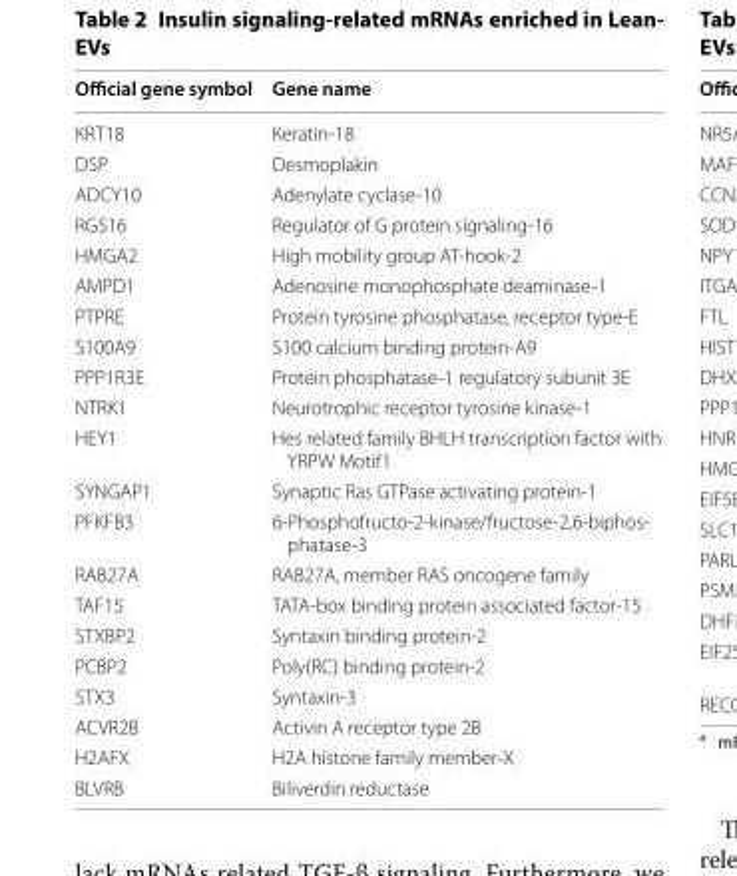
<table><thead><tr><td>Official gene symbol</td><td>Gene name</td></tr></thead><tbody><tr><td>KRT18</td><td>Keratin‑18</td></tr><tr><td>DSP</td><td>Desmoplakin</td></tr><tr><td>ADCY10</td><td>Adenylate cyclase‑10</td></tr><tr><td>RGS16</td><td>Regulator of G protein signaling‑16</td></tr><tr><td>HMGA2</td><td>High mobility group AT‑hook‑2</td></tr><tr><td>AMPD1</td><td>Adenosine monophosphate deaminase‑1</td></tr><tr><td>PTPRE</td><td>Protein tyrosine phosphatase, receptor type‑E</td></tr><tr><td>S100A9</td><td>S100 calcium binding protein‑A9</td></tr><tr><td>PPP1R3E</td><td>Protein phosphatase‑1 regulatory subunit 3E</td></tr><tr><td>NTRK1</td><td>Neurotrophic receptor tyrosine kinase‑1</td></tr><tr><td>HEY1</td><td>Hes related family BHLH transcription factor with YRPW Motif1</td></tr><tr><td>SYNGAP1</td><td>Synaptic Ras GTPase activating protein‑1</td></tr><tr><td>PFKFB3</td><td>6‑Phosphofructo‑2‑kinase/fructose‑2,6‑biphos‑ phatase‑3</td></tr><tr><td>RAB27A</td><td>RAB27A, member RAS oncogene family</td></tr><tr><td>TAF15</td><td>TATA‑box binding protein associated factor‑15</td></tr><tr><td>STXBP2</td><td>Syntaxin binding protein‑2</td></tr><tr><td>PCBP2</td><td>Poly(RC) binding protein‑2</td></tr><tr><td>STX3</td><td>Syntaxin‑3</td></tr><tr><td>ACVR2B</td><td>Activin A receptor type 2B</td></tr><tr><td>H2AFX</td><td>H2A histone family member‑X</td></tr><tr><td>BLVRB</td><td>Biliverdin reductase</td></tr></tbody></table>